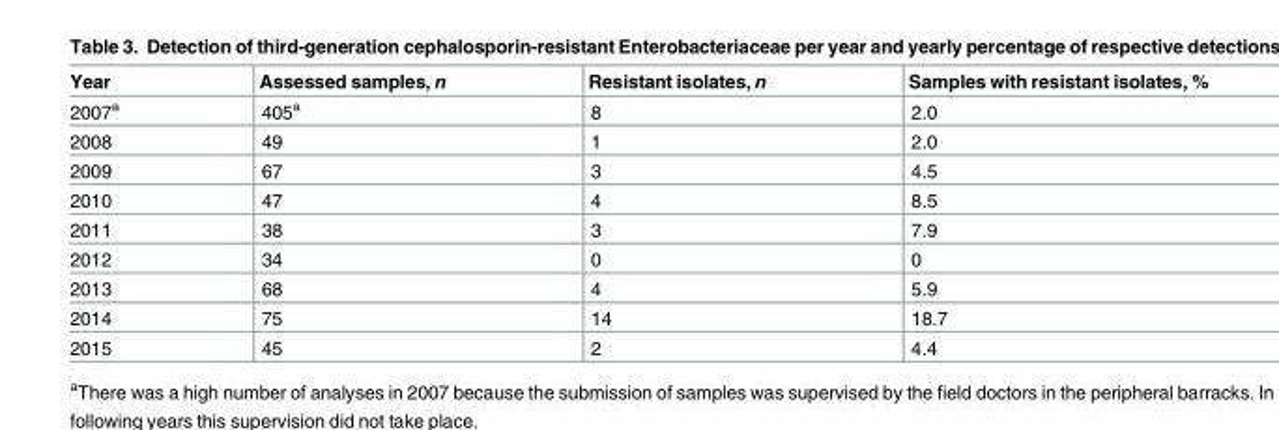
<table><thead><tr><td>Year</td><td>Assessed samples, n</td><td>Resistant isolates, n</td><td>Samples with resistant isolates, %</td></tr></thead><tbody><tr><td>2007<sup>a</sup></td><td>405<sup>a</sup></td><td>8</td><td>2.0</td></tr><tr><td>2008</td><td>49</td><td>1</td><td>2.0</td></tr><tr><td>2009</td><td>67</td><td>3</td><td>4.5</td></tr><tr><td>2010</td><td>47</td><td>4</td><td>8.5</td></tr><tr><td>2011</td><td>38</td><td>3</td><td>7.9</td></tr><tr><td>2012</td><td>34</td><td>0</td><td>0</td></tr><tr><td>2013</td><td>68</td><td>4</td><td>5.9</td></tr><tr><td>2014</td><td>75</td><td>14</td><td>18.7</td></tr><tr><td>2015</td><td>45</td><td>2</td><td>4.4</td></tr></tbody></table>